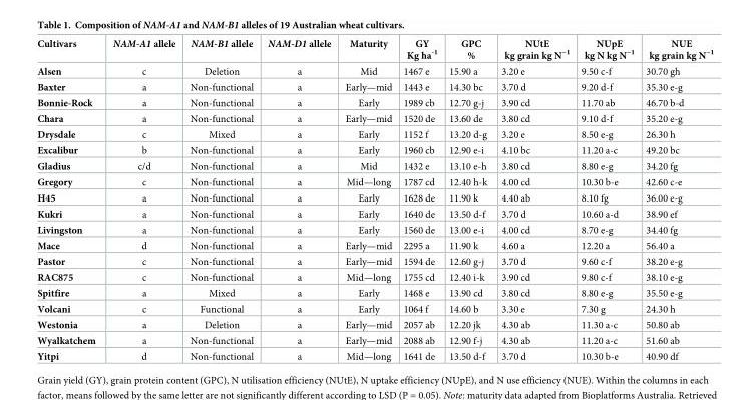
<table><thead><tr><td>Cultivars</td><td>NAM-A1 allele</td><td>NAM-B1 allele</td><td>NAM-D1 allele</td><td>Maturity</td><td>GY Kg ha<sup>-1</sup></td><td>GPC %</td><td>NUtE kg grain kg N<sup>−1</sup></td><td>NUpE kg N kg N<sup>−1</sup></td><td>NUE kg grain kg N<sup>−1</sup></td></tr></thead><tbody><tr><td>Alsen</td><td>c</td><td>Deletion</td><td>a</td><td>Mid</td><td>1467 e</td><td>15.90 a</td><td>3.20 e</td><td>9.50 c-f</td><td>30.70 gh</td></tr><tr><td>Baxter</td><td>a</td><td>Non-functional</td><td>a</td><td>Early—mid</td><td>1443 e</td><td>14.30 bc</td><td>3.70 d</td><td>9.20 d-f</td><td>35.30 e-g</td></tr><tr><td>Bonnie-Rock</td><td>a</td><td>Non-functional</td><td>a</td><td>Early</td><td>1989 cb</td><td>12.70 g-j</td><td>3.90 cd</td><td>11.70 ab</td><td>46.70 b-d</td></tr><tr><td>Chara</td><td>a</td><td>Non-functional</td><td>a</td><td>Early—mid</td><td>1520 de</td><td>13.60 de</td><td>3.80 cd</td><td>9.10 d-f</td><td>35.20 e-g</td></tr><tr><td>Drysdale</td><td>c</td><td>Mixed</td><td>a</td><td>Early</td><td>1152 f</td><td>13.20 d-g</td><td>3.20 e</td><td>8.50 e-g</td><td>26.30 h</td></tr><tr><td>Excalibur</td><td>b</td><td>Non-functional</td><td>a</td><td>Early</td><td>1960 cb</td><td>12.90 e-i</td><td>4.10 bc</td><td>11.20 a-c</td><td>49.20 bc</td></tr><tr><td>Gladius</td><td>c/d</td><td>Non-functional</td><td>a</td><td>Mid</td><td>1432 e</td><td>13.10 e-h</td><td>3.80 cd</td><td>8.80 e-g</td><td>34.20 fg</td></tr><tr><td>Gregory</td><td>c</td><td>Non-functional</td><td>a</td><td>Mid—long</td><td>1787 cd</td><td>12.40 h-k</td><td>4.00 cd</td><td>10.30 b-e</td><td>42.60 c-e</td></tr><tr><td>H45</td><td>a</td><td>Non-functional</td><td>a</td><td>Early</td><td>1628 de</td><td>11.90 k</td><td>4.40 ab</td><td>8.10 fg</td><td>36.00 e-g</td></tr><tr><td>Kukri</td><td>a</td><td>Non-functional</td><td>a</td><td>Early</td><td>1640 de</td><td>13.50 d-f</td><td>3.70 d</td><td>10.60 a-d</td><td>38.90 ef</td></tr><tr><td>Livingston</td><td>a</td><td>Non-functional</td><td>a</td><td>Early</td><td>1560 de</td><td>13.00 e-i</td><td>4.00 cd</td><td>8.70 e-g</td><td>34.40 fg</td></tr><tr><td>Mace</td><td>d</td><td>Non-functional</td><td>a</td><td>Early—mid</td><td>2295 a</td><td>11.90 k</td><td>4.60 a</td><td>12.20 a</td><td>56.40 a</td></tr><tr><td>Pastor</td><td>c</td><td>Non-functional</td><td>a</td><td>Early—mid</td><td>1594 de</td><td>12.60 g-j</td><td>3.70 d</td><td>9.60 c-f</td><td>38.20 e-g</td></tr><tr><td>RAC875</td><td>c</td><td>Non-functional</td><td>a</td><td>Mid—long</td><td>1755 cd</td><td>12.40 i-k</td><td>3.90 cd</td><td>9.80 c-f</td><td>38.10 e-g</td></tr><tr><td>Spitfire</td><td>a</td><td>Mixed</td><td>a</td><td>Early</td><td>1468 e</td><td>13.90 cd</td><td>3.80 cd</td><td>8.80 e-g</td><td>35.50 e-g</td></tr><tr><td>Volcani</td><td>c</td><td>Functional</td><td>a</td><td>Early</td><td>1064 f</td><td>14.60 b</td><td>3.30 e</td><td>7.30 g</td><td>24.30 h</td></tr><tr><td>Westonia</td><td>a</td><td>Deletion</td><td>a</td><td>Early—mid</td><td>2057 ab</td><td>12.20 jk</td><td>4.30 ab</td><td>11.30 a-c</td><td>50.80 ab</td></tr><tr><td>Wyalkatchem</td><td>a</td><td>Non-functional</td><td>a</td><td>Early—mid</td><td>2088 ab</td><td>12.90 f-j</td><td>4.30 ab</td><td>11.20 a-c</td><td>51.60 ab</td></tr><tr><td>Yitpi</td><td>d</td><td>Non-functional</td><td>a</td><td>Mid—long</td><td>1641 de</td><td>13.50 d-f</td><td>3.70 d</td><td>10.30 b-e</td><td>40.90 df</td></tr></tbody></table>